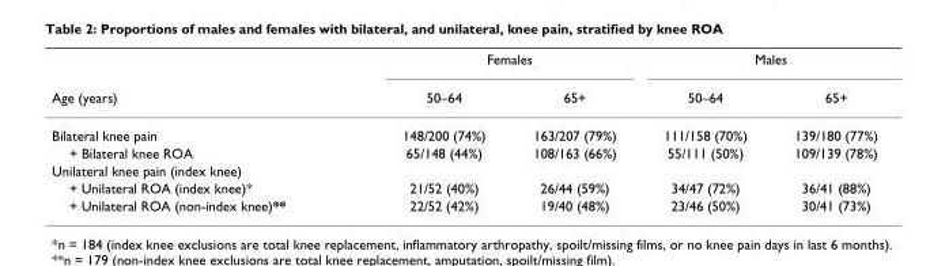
<table><thead><tr><td rowspan="2">Age (years)</td><td colspan="2">Females</td><td colspan="2">Males</td></tr><tr><td>50–64</td><td>65+</td><td>50–64</td><td>65+</td></tr></thead><tbody><tr><td>Bilateral knee pain</td><td>148/200 (74%)</td><td>163/207 (79%)</td><td>111/158 (70%)</td><td>139/180 (77%)</td></tr><tr><td>+ Bilateral knee ROA</td><td>65/148 (44%)</td><td>108/163 (66%)</td><td>55/111 (50%)</td><td>109/139 (78%)</td></tr><tr><td colspan="5">Unilateral knee pain (index knee)</td></tr><tr><td>+ Unilateral ROA (index knee)*</td><td>21/52 (40%)</td><td>26/44 (59%)</td><td>34/47 (72%)</td><td>36/41 (88%)</td></tr><tr><td>+ Unilateral ROA (non-index knee)**</td><td>22/52 (42%)</td><td>19/40 (48%)</td><td>23/46 (50%)</td><td>30/41 (73%)</td></tr></tbody></table>